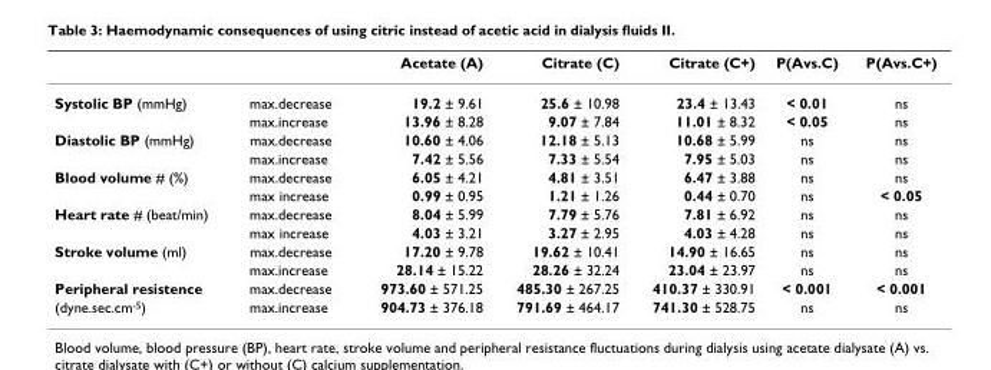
<table><thead><tr><td></td><td></td><td>Acetate (A)</td><td>Citrate (C)</td><td>Citrate (C+)</td><td>P(Avs.C)</td><td>P(Avs.C+)</td></tr></thead><tbody><tr><td rowspan="2">Systolic BP (mmHg)</td><td>max.decrease</td><td>19.2 ± 9.61</td><td>25.6 ± 10.98</td><td>23.4 ± 13.43</td><td>&lt; 0.01</td><td>ns</td></tr><tr><td>max.increase</td><td>13.96 ± 8.28</td><td>9.07 ± 7.84</td><td>11.01 ± 8.32</td><td>&lt; 0.05</td><td>ns</td></tr><tr><td rowspan="2">Diastolic BP (mmHg)</td><td>max.decrease</td><td>10.60 ± 4.06</td><td>12.18 ± 5.13</td><td>10.68 ± 5.99</td><td>ns</td><td>ns</td></tr><tr><td>max.increase</td><td>7.42 ± 5.56</td><td>7.33 ± 5.54</td><td>7.95 ± 5.03</td><td>ns</td><td>ns</td></tr><tr><td rowspan="2">Blood volume # (%)</td><td>max.decrease</td><td>6.05 ± 4.21</td><td>4.81 ± 3.51</td><td>6.47 ± 3.88</td><td>ns</td><td>ns</td></tr><tr><td>max increase</td><td>0.99 ± 0.95</td><td>1.21 ± 1.26</td><td>0.44 ± 0.70</td><td>ns</td><td>&lt; 0.05</td></tr><tr><td rowspan="2">Heart rate # (beat/min)</td><td>max.decrease</td><td>8.04 ± 5.99</td><td>7.79 ± 5.76</td><td>7.81 ± 6.92</td><td>ns</td><td>ns</td></tr><tr><td>max increase</td><td>4.03 ± 3.21</td><td>3.27 ± 2.95</td><td>4.03 ± 4.28</td><td>ns</td><td>ns</td></tr><tr><td rowspan="2">Stroke volume (ml)</td><td>max.decrease</td><td>17.20 ± 9.78</td><td>19.62 ± 10.41</td><td>14.90 ± 16.65</td><td>ns</td><td>ns</td></tr><tr><td>max.increase</td><td>28.14 ± 15.22</td><td>28.26 ± 32.24</td><td>23.04 ± 23.97</td><td>ns</td><td>ns</td></tr><tr><td>Peripheral resistence</td><td>max.decrease</td><td>973.60 ± 571.25</td><td>485.30 ± 267.25</td><td>410.37 ± 330.91</td><td>&lt; 0.001</td><td>&lt; 0.001</td></tr><tr><td>(dyne.sec.cm<sup>-5</sup>)</td><td>max.increase</td><td>904.73 ± 376.18</td><td>791.69 ± 464.17</td><td>741.30 ± 528.75</td><td>ns</td><td>ns</td></tr></tbody></table>